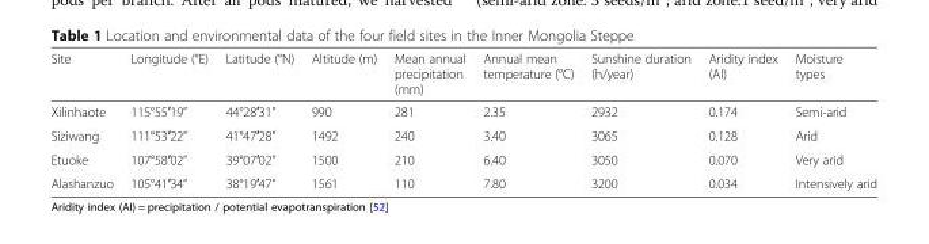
<table><thead><tr><td>Site</td><td>Longitude (°E)</td><td>Latitude (°N)</td><td>Altitude (m)</td><td>Mean annual precipitation (mm)</td><td>Annual mean temperature (°C)</td><td>Sunshine duration (h/year)</td><td>Aridity index (AI)</td><td>Moisture types</td></tr></thead><tbody><tr><td>Xilinhaote</td><td>115°55′19”</td><td>44°28′31”</td><td>990</td><td>281</td><td>2.35</td><td>2932</td><td>0.174</td><td>Semi-arid</td></tr><tr><td>Siziwang</td><td>111°53′22”</td><td>41°47′28”</td><td>1492</td><td>240</td><td>3.40</td><td>3065</td><td>0.128</td><td>Arid</td></tr><tr><td>Etuoke</td><td>107°58′02”</td><td>39°07′02”</td><td>1500</td><td>210</td><td>6.40</td><td>3050</td><td>0.070</td><td>Very arid</td></tr><tr><td>Alashanzuo</td><td>105°41′34”</td><td>38°19′47”</td><td>1561</td><td>110</td><td>7.80</td><td>3200</td><td>0.034</td><td>Intensively arid</td></tr></tbody></table>